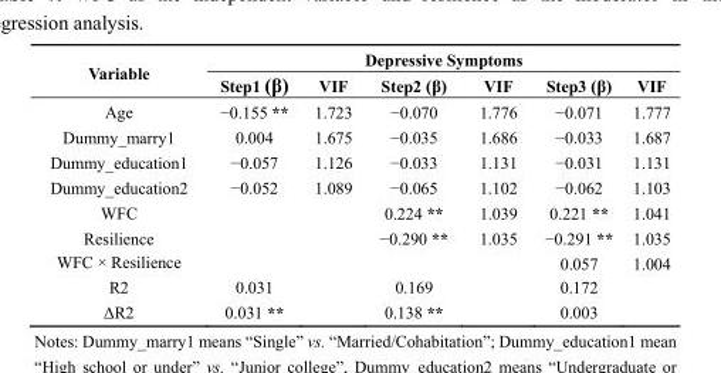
<table><thead><tr><td rowspan="2">Variable</td><td colspan="6">Depressive Symptoms</td></tr><tr><td>Step1 (β)</td><td>VIF</td><td>Step2 (β)</td><td>VIF</td><td>Step3 (β)</td><td>VIF</td></tr></thead><tbody><tr><td>Age</td><td>−0.155 **</td><td>1.723</td><td>−0.070</td><td>1.776</td><td>−0.071</td><td>1.777</td></tr><tr><td>Dummy_marry1</td><td>0.004</td><td>1.675</td><td>−0.035</td><td>1.686</td><td>−0.033</td><td>1.687</td></tr><tr><td>Dummy_education1</td><td>−0.057</td><td>1.126</td><td>−0.033</td><td>1.131</td><td>−0.031</td><td>1.131</td></tr><tr><td>Dummy_education2</td><td>−0.052</td><td>1.089</td><td>−0.065</td><td>1.102</td><td>−0.062</td><td>1.103</td></tr><tr><td>WFC</td><td></td><td></td><td>0.224 **</td><td>1.039</td><td>0.221 **</td><td>1.041</td></tr><tr><td>Resilience</td><td></td><td></td><td>−0.290 **</td><td>1.035</td><td>−0.291 **</td><td>1.035</td></tr><tr><td>WFC × Resilience</td><td></td><td></td><td></td><td></td><td>0.057</td><td>1.004</td></tr><tr><td>R2</td><td>0.031</td><td></td><td>0.169</td><td></td><td>0.172</td><td></td></tr><tr><td>ΔR2</td><td>0.031 **</td><td></td><td>0.138 **</td><td></td><td>0.003</td><td></td></tr></tbody></table>